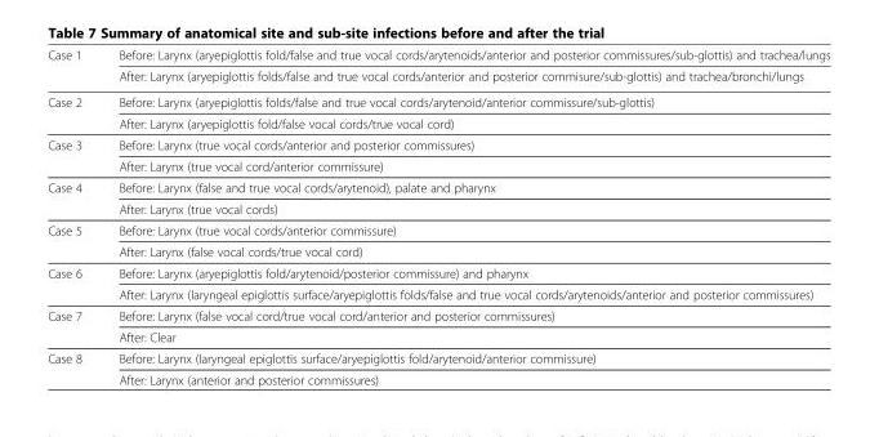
<table><thead><tr><td rowspan="2">Case 1</td><td rowspan="2">Before: Larynx (aryepiglottis fold/false and true vocal cords/arytenoids/anterior and posterior commissures/sub-glottis) and trachea/lungs After: Larynx (aryepiglottis folds/false and true vocal cords/anterior and posterior commisure/sub-glottis) and trachea/bronchi/lungs</td></tr><tr></tr></thead><tbody><tr><td rowspan="2">Case 2</td><td>Before: Larynx (aryepiglottis folds/false and true vocal cords/arytenoid/anterior commissure/sub-glottis)</td></tr><tr><td>After: Larynx (aryepiglottis fold/false vocal cords/true vocal cord)</td></tr><tr><td rowspan="2">Case 3</td><td>Before: Larynx (true vocal cords/anterior and posterior commissures)</td></tr><tr><td>After: Larynx (true vocal cord/anterior commissure)</td></tr><tr><td rowspan="2">Case 4</td><td>Before: Larynx (false and true vocal cords/arytenoid), palate and pharynx</td></tr><tr><td>After: Larynx (true vocal cords)</td></tr><tr><td rowspan="2">Case 5</td><td>Before: Larynx (true vocal cords/anterior commissure)</td></tr><tr><td>After: Larynx (false vocal cords/true vocal cord)</td></tr><tr><td rowspan="2">Case 6</td><td>Before: Larynx (aryepiglottis fold/arytenoid/posterior commissure) and pharynx</td></tr><tr><td>After: Larynx (laryngeal epiglottis surface/aryepiglottis folds/false and true vocal cords/arytenoids/anterior and posterior commissures)</td></tr><tr><td rowspan="2">Case 7</td><td>Before: Larynx (false vocal cord/true vocal cord/anterior and posterior commissures)</td></tr><tr><td>After: Clear</td></tr><tr><td rowspan="2">Case 8</td><td>Before: Larynx (laryngeal epiglottis surface/aryepiglottis fold/arytenoid/anterior commissure)</td></tr><tr><td>After: Larynx (anterior and posterior commissures)</td></tr></tbody></table>